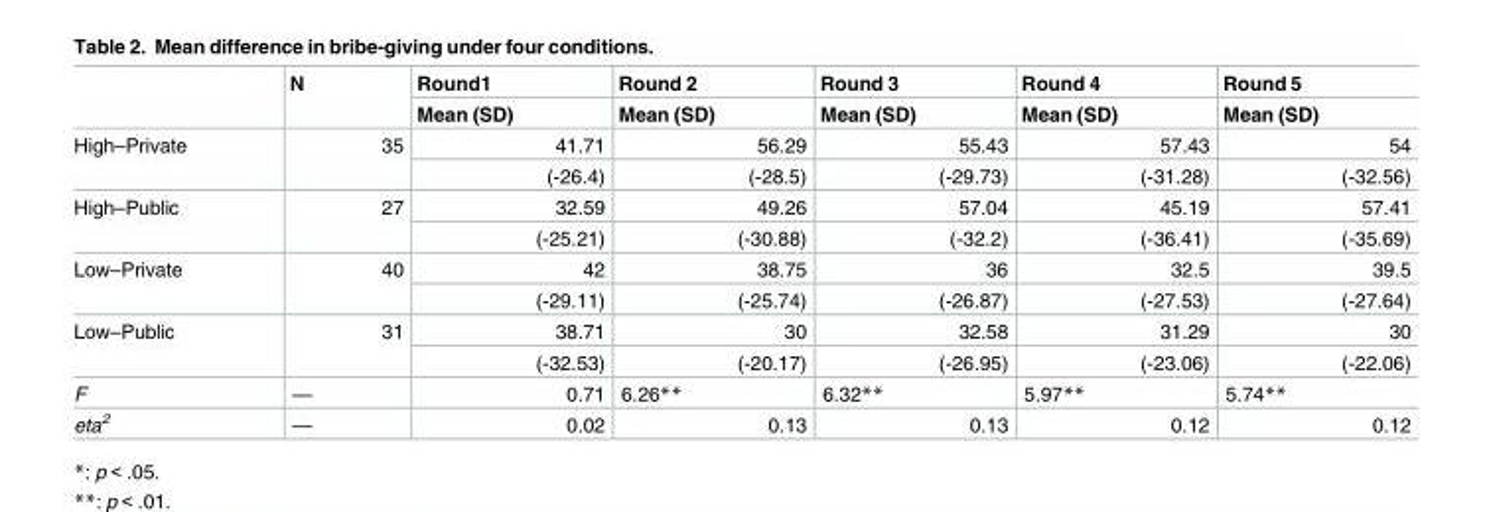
<table><thead><tr><td rowspan="2"></td><td rowspan="2">N</td><td rowspan="2">Round1 Mean (SD)</td><td rowspan="2">Round 2 Mean (SD)</td><td rowspan="2">Round 3 Mean (SD)</td><td rowspan="2">Round 4 Mean (SD)</td><td rowspan="2">Round 5 Mean (SD)</td></tr><tr></tr></thead><tbody><tr><td rowspan="2">High–Private</td><td rowspan="2">35</td><td>41.71</td><td>56.29</td><td>55.43</td><td>57.43</td><td>54</td></tr><tr><td>(-26.4)</td><td>(-28.5)</td><td>(-29.73)</td><td>(-31.28)</td><td>(-32.56)</td></tr><tr><td rowspan="2">High–Public</td><td rowspan="2">27</td><td>32.59</td><td>49.26</td><td>57.04</td><td>45.19</td><td>57.41</td></tr><tr><td>(-25.21)</td><td>(-30.88)</td><td>(-32.2)</td><td>(-36.41)</td><td>(-35.69)</td></tr><tr><td rowspan="2">Low–Private</td><td rowspan="2">40</td><td>42</td><td>38.75</td><td>36</td><td>32.5</td><td>39.5</td></tr><tr><td>(-29.11)</td><td>(-25.74)</td><td>(-26.87)</td><td>(-27.53)</td><td>(-27.64)</td></tr><tr><td rowspan="2">Low–Public</td><td rowspan="2">31</td><td>38.71</td><td>30</td><td>32.58</td><td>31.29</td><td>30</td></tr><tr><td>(-32.53)</td><td>(-20.17)</td><td>(-26.95)</td><td>(-23.06)</td><td>(-22.06)</td></tr><tr><td>F</td><td>—</td><td>0.71</td><td>6.26**</td><td>6.32**</td><td>5.97**</td><td>5.74**</td></tr><tr><td>eta<sup>2</sup></td><td>—</td><td>0.02</td><td>0.13</td><td>0.13</td><td>0.12</td><td>0.12</td></tr></tbody></table>